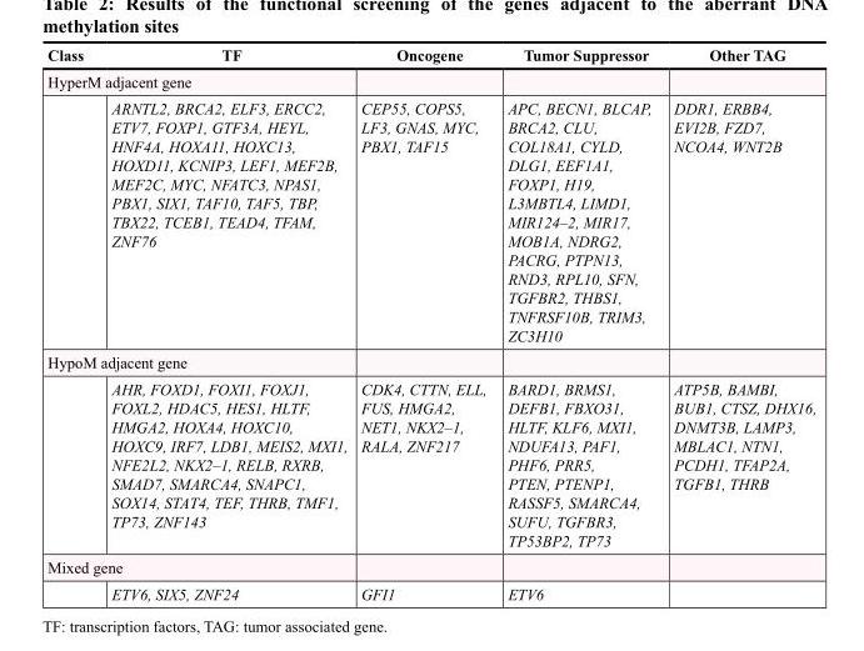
<table><thead><tr><td>Class</td><td>TF</td><td>Oncogene</td><td>Tumor Suppressor</td><td>Other TAG</td></tr></thead><tbody><tr><td colspan="5">HyperM adjacent gene</td></tr><tr><td></td><td>ARNTL2, BRCA2, ELF3, ERCC2, ETV7, FOXP1, GTF3A, HEYL, HNF4A, HOXA11, HOXC13, HOXD11, KCNIP3, LEF1, MEF2B, MEF2C, MYC, NFATC3, NPAS1, PBX1, SIX1, TAF10, TAF5, TBP, TBX22, TCEB1, TEAD4, TFAM, ZNF76</td><td>CEP55, COPS5, LF3, GNAS, MYC, PBX1, TAF15</td><td>APC, BECN1, BLCAP, BRCA2, CLU, COL18A1, CYLD, DLG1, EEF1A1, FOXP1, H19, L3MBTL4, LIMD1, MIR124–2, MIR17, MOB1A, NDRG2, PACRG, PTPN13, RND3, RPL10, SFN, TGFBR2, THBS1, TNFRSF10B, TRIM3, ZC3H10</td><td>DDR1, ERBB4, EVI2B, FZD7, NCOA4, WNT2B</td></tr><tr><td colspan="5">HypoM adjacent gene</td></tr><tr><td></td><td>AHR, FOXD1, FOXI1, FOXJ1, FOXL2, HDAC5, HES1, HLTF, HMGA2, HOXA4, HOXC10, HOXC9, IRF7, LDB1, MEIS2, MXI1, NFE2L2, NKX2–1, RELB, RXRB, SMAD7, SMARCA4, SNAPC1, SOX14, STAT4, TEF, THRB, TMF1, TP73, ZNF143</td><td>CDK4, CTTN, ELL, FUS, HMGA2, NET1, NKX2–1, RALA, ZNF217</td><td>BARD1, BRMS1, DEFB1, FBXO31, HLTF, KLF6, MXI1, NDUFA13, PAF1, PHF6, PRR5, PTEN, PTENP1, RASSF5, SMARCA4, SUFU, TGFBR3, TP53BP2, TP73</td><td>ATP5B, BAMBI, BUB1, CTSZ, DHX16, DNMT3B, LAMP3, MBLAC1, NTN1, PCDH1, TFAP2A, TGFB1, THRB</td></tr><tr><td colspan="5">Mixed gene</td></tr><tr><td></td><td>ETV6, SIX5, ZNF24</td><td>GFI1</td><td>ETV6</td><td></td></tr></tbody></table>